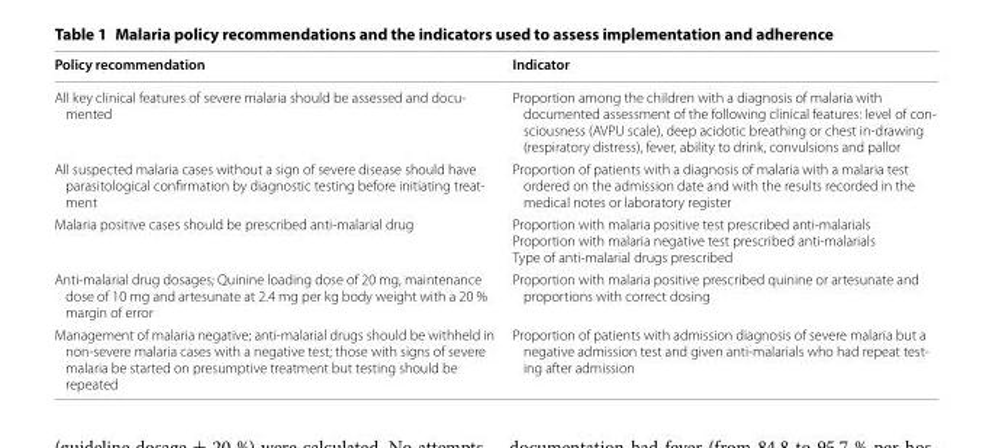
<table><thead><tr><td>Policy recommendation</td><td>Indicator</td></tr></thead><tbody><tr><td>All key clinical features of severe malaria should be assessed and docu- mented</td><td>Proportion among the children with a diagnosis of malaria with documented assessment of the following clinical features: level of con- sciousness (AVPU scale), deep acidotic breathing or chest in-drawing (respiratory distress), fever, ability to drink, convulsions and pallor</td></tr><tr><td>All suspected malaria cases without a sign of severe disease should have parasitological confirmation by diagnostic testing before initiating treat- ment</td><td>Proportion of patients with a diagnosis of malaria with a malaria test ordered on the admission date and with the results recorded in the medical notes or laboratory register</td></tr><tr><td>Malaria positive cases should be prescribed anti-malarial drug</td><td>Proportion with malaria positive test prescribed anti-malarials Proportion with malaria negative test prescribed anti-malarials Type of anti-malarial drugs prescribed</td></tr><tr><td>Anti-malarial drug dosages; Quinine loading dose of 20 mg, maintenance dose of 10 mg and artesunate at 2.4 mg per kg body weight with a 20 % margin of error</td><td>Proportion with malaria positive prescribed quinine or artesunate and proportions with correct dosing</td></tr><tr><td>Management of malaria negative; anti-malarial drugs should be withheld in non-severe malaria cases with a negative test; those with signs of severe malaria be started on presumptive treatment but testing should be repeated</td><td>Proportion of patients with admission diagnosis of severe malaria but a negative admission test and given anti-malarials who had repeat test- ing after admission</td></tr></tbody></table>